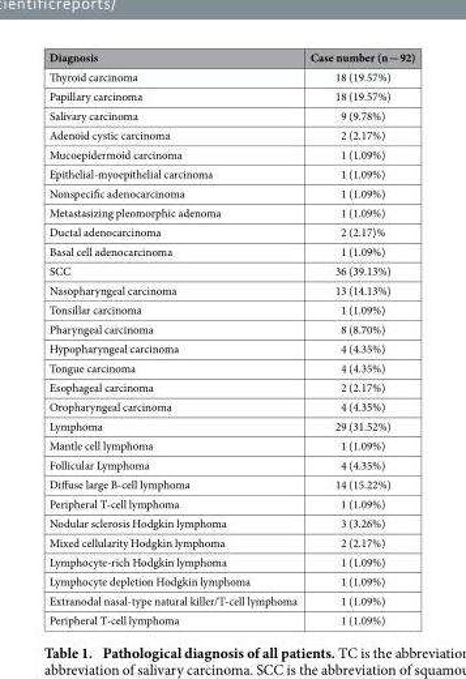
<table><thead><tr><td>Diagnosis</td><td>Case number (n = 92)</td></tr></thead><tbody><tr><td>Thyroid carcinoma</td><td>18 (19.57%)</td></tr><tr><td>Papillary carcinoma</td><td>18 (19.57%)</td></tr><tr><td>Salivary carcinoma</td><td>9 (9.78%)</td></tr><tr><td>Adenoid cystic carcinoma</td><td>2 (2.17%)</td></tr><tr><td>Mucoepidermoid carcinoma</td><td>1 (1.09%)</td></tr><tr><td>Epithelial-myoepithelial carcinoma</td><td>1 (1.09%)</td></tr><tr><td>Nonspecific adenocarcinoma</td><td>1 (1.09%)</td></tr><tr><td>Metastasizing pleomorphic adenoma</td><td>1 (1.09%)</td></tr><tr><td>Ductal adenocarcinoma</td><td>2 (2.17)%</td></tr><tr><td>Basal cell adenocarcinoma</td><td>1 (1.09%)</td></tr><tr><td>SCC</td><td>36 (39.13%)</td></tr><tr><td>Nasopharyngeal carcinoma</td><td>13 (14.13%)</td></tr><tr><td>Tonsillar carcinoma</td><td>1 (1.09%)</td></tr><tr><td>Pharyngeal carcinoma</td><td>8 (8.70%)</td></tr><tr><td>Hypopharyngeal carcinoma</td><td>4 (4.35%)</td></tr><tr><td>Tongue carcinoma</td><td>4 (4.35%)</td></tr><tr><td>Esophageal carcinoma</td><td>2 (2.17%)</td></tr><tr><td>Oropharyngeal carcinoma</td><td>4 (4.35%)</td></tr><tr><td>Lymphoma</td><td>29 (31.52%)</td></tr><tr><td>Mantle cell lymphoma</td><td>1 (1.09%)</td></tr><tr><td>Follicular Lymphoma</td><td>4 (4.35%)</td></tr><tr><td>Diffuse large B-cell lymphoma</td><td>14 (15.22%)</td></tr><tr><td>Peripheral T-cell lymphoma</td><td>1 (1.09%)</td></tr><tr><td>Nodular sclerosis Hodgkin lymphoma</td><td>3 (3.26%)</td></tr><tr><td>Mixed cellularity Hodgkin lymphoma</td><td>2 (2.17%)</td></tr><tr><td>Lymphocyte-rich Hodgkin lymphoma</td><td>1 (1.09%)</td></tr><tr><td>Lymphocyte depletion Hodgkin lymphoma</td><td>1 (1.09%)</td></tr><tr><td>Extranodal nasal-type natural killer/T-cell lymphoma</td><td>1 (1.09%)</td></tr><tr><td>Peripheral T-cell lymphoma</td><td>1 (1.09%)</td></tr></tbody></table>